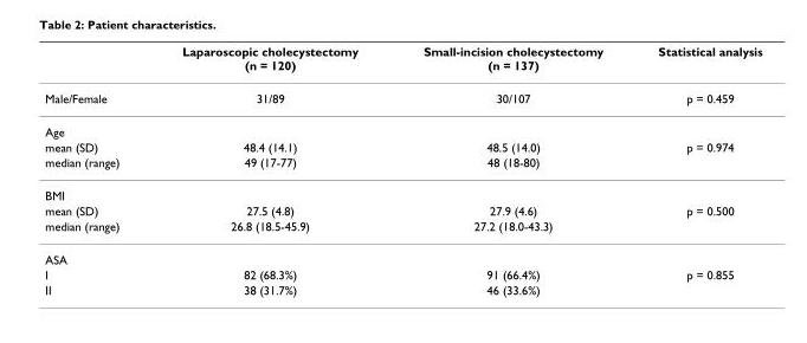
<table><thead><tr><td></td><td>Laparoscopic cholecystectomy (n = 120)</td><td>Small-incision cholecystectomy (n = 137)</td><td>Statistical analysis</td></tr></thead><tbody><tr><td>Male/Female</td><td>31/89</td><td>30/107</td><td>p = 0.459</td></tr><tr><td colspan="4">Age</td></tr><tr><td>mean (SD)</td><td>48.4 (14.1)</td><td>48.5 (14.0)</td><td>p = 0.974</td></tr><tr><td>median (range)</td><td>49 (17-77)</td><td>48 (18-80)</td><td></td></tr><tr><td colspan="4">BMI</td></tr><tr><td>mean (SD)</td><td>27.5 (4.8)</td><td>27.9 (4.6)</td><td>p = 0.500</td></tr><tr><td>median (range)</td><td>26.8 (18.5-45.9)</td><td>27.2 (18.0-43.3)</td><td></td></tr><tr><td colspan="4">ASA</td></tr><tr><td>I</td><td>82 (68.3%)</td><td>91 (66.4%)</td><td>p = 0.855</td></tr><tr><td>II</td><td>38 (31.7%)</td><td>46 (33.6%)</td><td></td></tr></tbody></table>